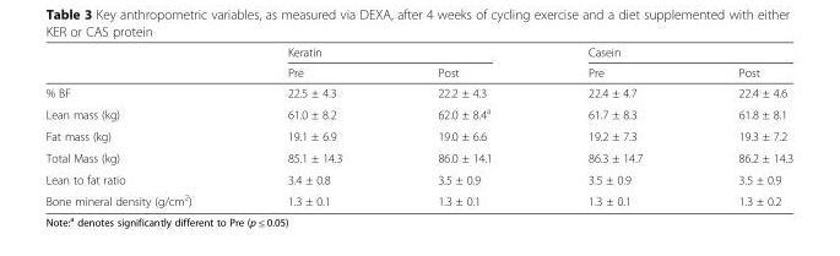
<table><thead><tr><td rowspan="2"></td><td colspan="2">Keratin</td><td colspan="2">Casein</td></tr><tr><td>Pre</td><td>Post</td><td>Pre</td><td>Post</td></tr></thead><tbody><tr><td>% BF</td><td>22.5 ± 4.3</td><td>22.2 ± 4.3</td><td>22.4 ± 4.7</td><td>22.4 ± 4.6</td></tr><tr><td>Lean mass (kg)</td><td>61.0 ± 8.2</td><td>62.0 ± 8.4<sup>a</sup></td><td>61.7 ± 8.3</td><td>61.8 ± 8.1</td></tr><tr><td>Fat mass (kg)</td><td>19.1 ± 6.9</td><td>19.0 ± 6.6</td><td>19.2 ± 7.3</td><td>19.3 ± 7.2</td></tr><tr><td>Total Mass (kg)</td><td>85.1 ± 14.3</td><td>86.0 ± 14.1</td><td>86.3 ± 14.7</td><td>86.2 ± 14.3</td></tr><tr><td>Lean to fat ratio</td><td>3.4 ± 0.8</td><td>3.5 ± 0.9</td><td>3.5 ± 0.9</td><td>3.5 ± 0.9</td></tr><tr><td>Bone mineral density (g/cm<sup>2</sup>)</td><td>1.3 ± 0.1</td><td>1.3 ± 0.1</td><td>1.3 ± 0.1</td><td>1.3 ± 0.2</td></tr></tbody></table>